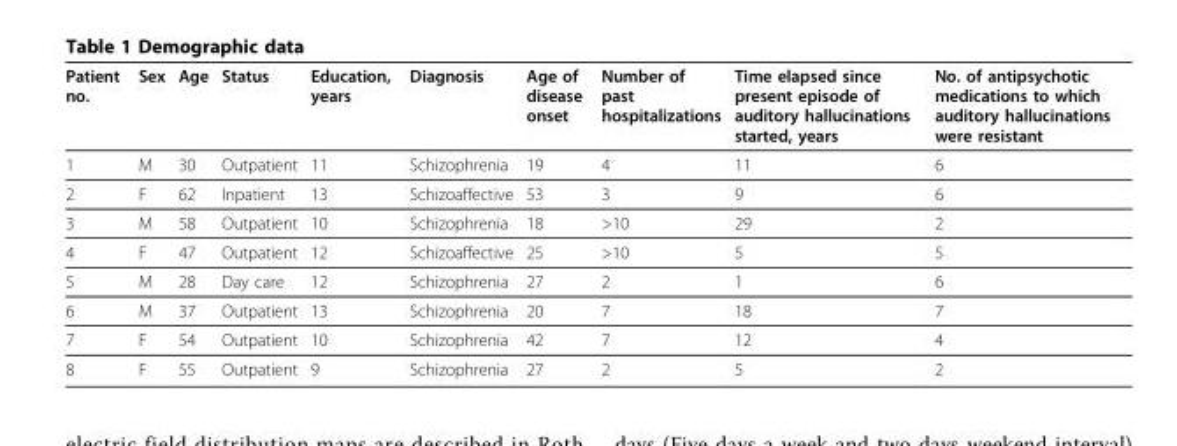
<table><thead><tr><td>Patient no.</td><td>Sex</td><td>Age</td><td>Status</td><td>Education, years</td><td>Diagnosis</td><td>Age of disease onset</td><td>Number of past hospitalizations</td><td>Time elapsed since present episode of auditory hallucinations started, years</td><td>No. of antipsychotic medications to which auditory hallucinations were resistant</td></tr></thead><tbody><tr><td>1</td><td>M</td><td>30</td><td>Outpatient</td><td>11</td><td>Schizophrenia</td><td>19</td><td>4</td><td>11</td><td>6</td></tr><tr><td>2</td><td>F</td><td>62</td><td>Inpatient</td><td>13</td><td>Schizoaffective</td><td>53</td><td>3</td><td>9</td><td>6</td></tr><tr><td>3</td><td>M</td><td>58</td><td>Outpatient</td><td>10</td><td>Schizophrenia</td><td>18</td><td>&gt;10</td><td>29</td><td>2</td></tr><tr><td>4</td><td>F</td><td>47</td><td>Outpatient</td><td>12</td><td>Schizoaffective</td><td>25</td><td>&gt;10</td><td>5</td><td>5</td></tr><tr><td>5</td><td>M</td><td>28</td><td>Day care</td><td>12</td><td>Schizophrenia</td><td>27</td><td>2</td><td>1</td><td>6</td></tr><tr><td>6</td><td>M</td><td>37</td><td>Outpatient</td><td>13</td><td>Schizophrenia</td><td>20</td><td>7</td><td>18</td><td>7</td></tr><tr><td>7</td><td>F</td><td>54</td><td>Outpatient</td><td>10</td><td>Schizophrenia</td><td>42</td><td>7</td><td>12</td><td>4</td></tr><tr><td>8</td><td>F</td><td>55</td><td>Outpatient</td><td>9</td><td>Schizophrenia</td><td>27</td><td>2</td><td>5</td><td>2</td></tr></tbody></table>